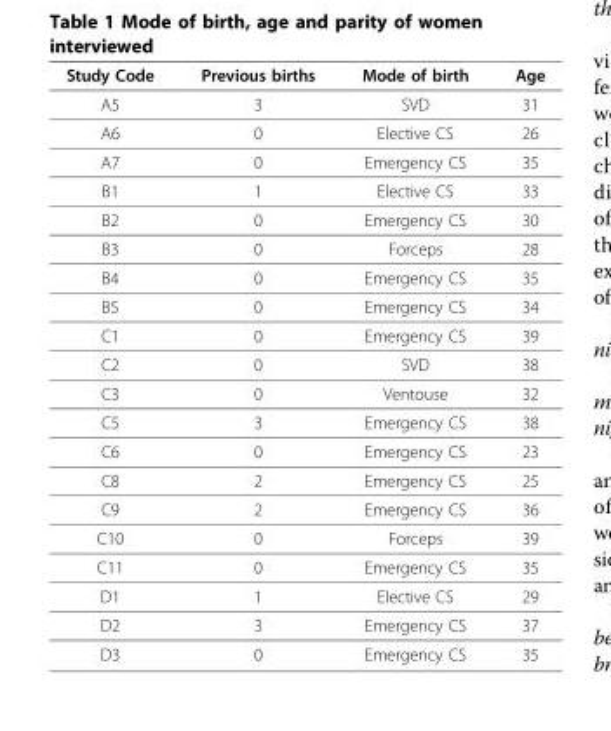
<table><thead><tr><td>Study Code</td><td>Previous births</td><td>Mode of birth</td><td>Age</td></tr></thead><tbody><tr><td>A5</td><td>3</td><td>SVD</td><td>31</td></tr><tr><td>A6</td><td>0</td><td>Elective CS</td><td>26</td></tr><tr><td>A7</td><td>0</td><td>Emergency CS</td><td>35</td></tr><tr><td>B1</td><td>1</td><td>Elective CS</td><td>33</td></tr><tr><td>B2</td><td>0</td><td>Emergency CS</td><td>30</td></tr><tr><td>B3</td><td>0</td><td>Forceps</td><td>28</td></tr><tr><td>B4</td><td>0</td><td>Emergency CS</td><td>35</td></tr><tr><td>B5</td><td>0</td><td>Emergency CS</td><td>34</td></tr><tr><td>C1</td><td>0</td><td>Emergency CS</td><td>39</td></tr><tr><td>C2</td><td>0</td><td>SVD</td><td>38</td></tr><tr><td>C3</td><td>0</td><td>Ventouse</td><td>32</td></tr><tr><td>C5</td><td>3</td><td>Emergency CS</td><td>38</td></tr><tr><td>C6</td><td>0</td><td>Emergency CS</td><td>23</td></tr><tr><td>C8</td><td>2</td><td>Emergency CS</td><td>25</td></tr><tr><td>C9</td><td>2</td><td>Emergency CS</td><td>36</td></tr><tr><td>C10</td><td>0</td><td>Forceps</td><td>39</td></tr><tr><td>C11</td><td>0</td><td>Emergency CS</td><td>35</td></tr><tr><td>D1</td><td>1</td><td>Elective CS</td><td>29</td></tr><tr><td>D2</td><td>3</td><td>Emergency CS</td><td>37</td></tr><tr><td>D3</td><td>0</td><td>Emergency CS</td><td>35</td></tr></tbody></table>